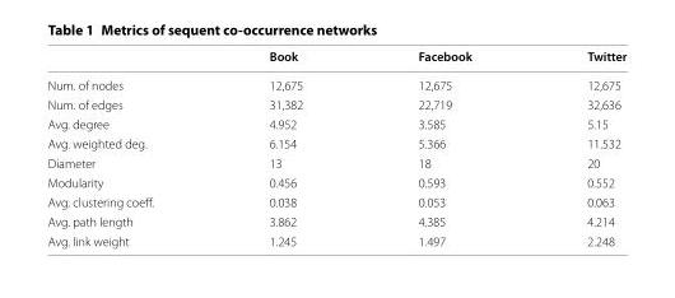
<table><thead><tr><td></td><td>Book</td><td>Facebook</td><td>Twitter</td></tr></thead><tbody><tr><td>Num. of nodes</td><td>12,675</td><td>12,675</td><td>12,675</td></tr><tr><td>Num. of edges</td><td>31,382</td><td>22,719</td><td>32,636</td></tr><tr><td>Avg. degree</td><td>4.952</td><td>3.585</td><td>5.15</td></tr><tr><td>Avg. weighted deg.</td><td>6.154</td><td>5.366</td><td>11.532</td></tr><tr><td>Diameter</td><td>13</td><td>18</td><td>20</td></tr><tr><td>Modularity</td><td>0.456</td><td>0.593</td><td>0.552</td></tr><tr><td>Avg. clustering coeff.</td><td>0.038</td><td>0.053</td><td>0.063</td></tr><tr><td>Avg. path length</td><td>3.862</td><td>4.385</td><td>4.214</td></tr><tr><td>Avg. link weight</td><td>1.245</td><td>1.497</td><td>2.248</td></tr></tbody></table>